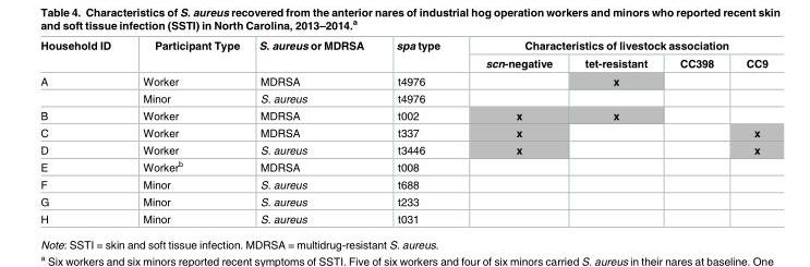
<table><thead><tr><td rowspan="2">Household ID</td><td rowspan="2">Participant Type</td><td rowspan="2">S. aureus or MDRSA</td><td rowspan="2">spa type</td><td colspan="4">Characteristics of livestock association</td></tr><tr><td>scn-negative</td><td>tet-resistant</td><td>CC398</td><td>CC9</td></tr></thead><tbody><tr><td rowspan="2">A</td><td>Worker</td><td>MDRSA</td><td>t4976</td><td></td><td>x</td><td></td><td></td></tr><tr><td>Minor</td><td>S. aureus</td><td>t4976</td><td></td><td></td><td></td><td></td></tr><tr><td>B</td><td>Worker</td><td>MDRSA</td><td>t002</td><td>x</td><td>x</td><td></td><td></td></tr><tr><td>C</td><td>Worker</td><td>MDRSA</td><td>t337</td><td>x</td><td></td><td></td><td>x</td></tr><tr><td>D</td><td>Worker</td><td>S. aureus</td><td>t3446</td><td>x</td><td></td><td></td><td>x</td></tr><tr><td>E</td><td>Worker<sup>b</sup></td><td>MDRSA</td><td>t008</td><td></td><td></td><td></td><td></td></tr><tr><td>F</td><td>Minor</td><td>S. aureus</td><td>t688</td><td></td><td></td><td></td><td></td></tr><tr><td>G</td><td>Minor</td><td>S. aureus</td><td>t233</td><td></td><td></td><td></td><td></td></tr><tr><td>H</td><td>Minor</td><td>S. aureus</td><td>t031</td><td></td><td></td><td></td><td></td></tr></tbody></table>